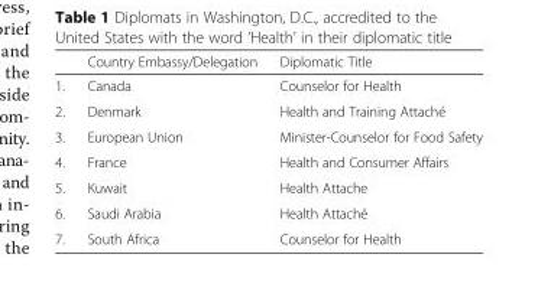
<table><thead><tr><td></td><td>Country Embassy/Delegation</td><td>Diplomatic Title</td></tr></thead><tbody><tr><td>1.</td><td>Canada</td><td>Counselor for Health</td></tr><tr><td>2.</td><td>Denmark</td><td>Health and Training Attaché</td></tr><tr><td>3.</td><td>European Union</td><td>Minister-Counselor for Food Safety</td></tr><tr><td>4.</td><td>France</td><td>Health and Consumer Affairs</td></tr><tr><td>5.</td><td>Kuwait</td><td>Health Attache</td></tr><tr><td>6.</td><td>Saudi Arabia</td><td>Health Attaché</td></tr><tr><td>7.</td><td>South Africa</td><td>Counselor for Health</td></tr></tbody></table>